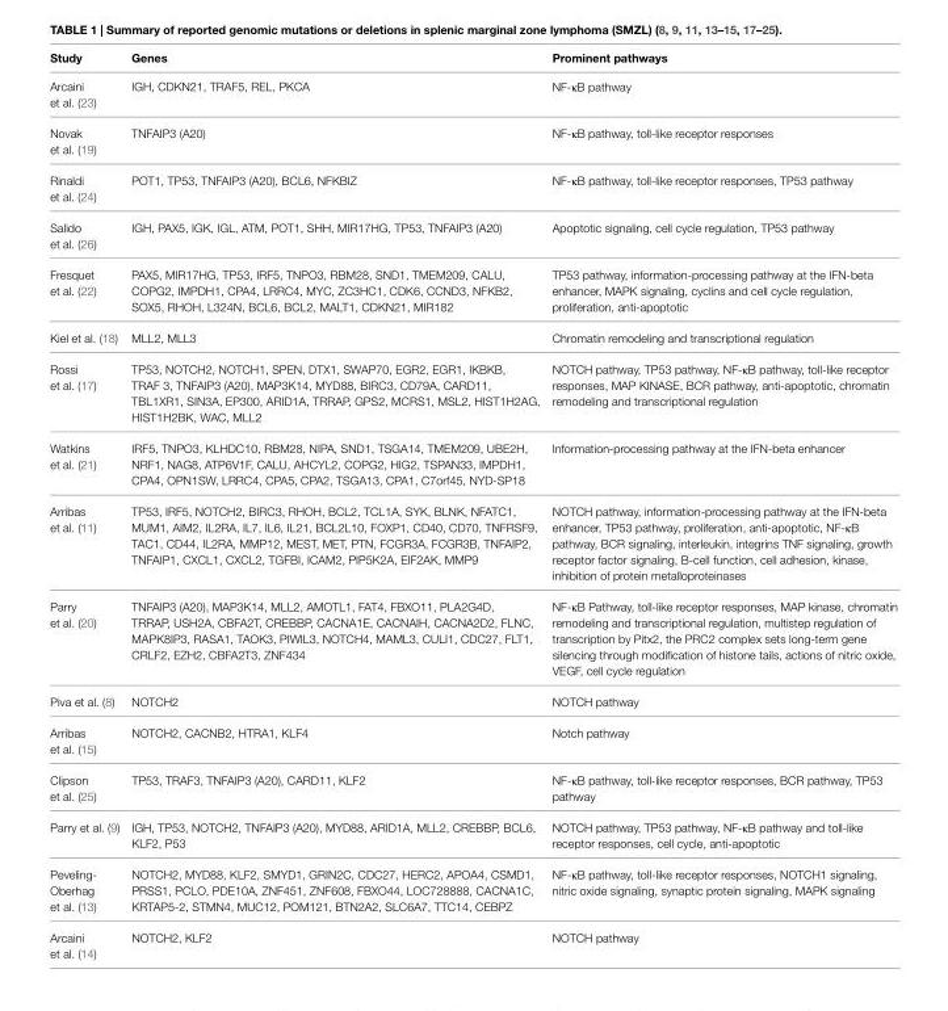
<table><thead><tr><td>Study</td><td>Genes</td><td>Prominent pathways</td></tr></thead><tbody><tr><td>Arcaini et al. (23)</td><td>IGH, CDKN21, TRAF5, REL, PKCA</td><td>NF-κB pathway</td></tr><tr><td>Novak et al. (19)</td><td>TNFAIP3 (A20)</td><td>NF-κB pathway, toll-like receptor responses</td></tr><tr><td>Rinaldi et al. (24)</td><td>POT1, TP53, TNFAIP3 (A20), BCL6, NFKBIZ</td><td>NF-κB pathway, toll-like receptor responses, TP53 pathway</td></tr><tr><td>Salido et al. (26)</td><td>IGH, PAX5, IGK, IGL, ATM, POT1, SHH, MIR17HG, TP53, TNFAIP3 (A20)</td><td>Apoptotic signaling, cell cycle regulation, TP53 pathway</td></tr><tr><td>Fresquet et al. (22)</td><td>PAX5, MIR17HG, TP53, IRF5, TNPO3, RBM28, SND1, TMEM209, CALU, COPG2, IMPDH1, CPA4, LRRC4, MYC, ZC3HC1, CDK6, CCND3, NFKB2, SOX5, RHOH, L324N, BCL6, BCL2, MALT1, CDKN21, MIR182</td><td>TP53 pathway, information-processing pathway at the IFN-beta enhancer, MAPK signaling, cyclins and cell cycle regulation, proliferation, anti-apoptotic</td></tr><tr><td>Kiel et al. (18)</td><td>MLL2, MLL3</td><td>Chromatin remodeling and transcriptional regulation</td></tr><tr><td>Rossi et al. (17)</td><td>TP53, NOTCH2, NOTCH1, SPEN, DTX1, SWAP70, EGR2, EGR1, IKBKB, TRAF 3, TNFAIP3 (A20), MAP3K14, MYD88, BIRC3, CD79A, CARD11, TBL1XR1, SIN3A, EP300, ARID1A, TRRAP, GPS2, MCRS1, MSL2, HIST1H2AG, HIST1H2BK, WAC, MLL2</td><td>NOTCH pathway, TP53 pathway, NF-κB pathway, toll-like receptor responses, MAP KINASE, BCR pathway, anti-apoptotic, chromatin remodeling and transcriptional regulation</td></tr><tr><td>Watkins et al. (21)</td><td>IRF5, TNPO3, KLHDC10, RBM28, NIPA, SND1, TSGA14, TMEM209, UBE2H, NRF1, NAG8, ATP6V1F, CALU, AHCYL2, COPG2, HIG2, TSPAN33, IMPDH1, CPA4, OPN1SW, LRRC4, CPA5, CPA2, TSGA13, CPA1, C7orf45, NYD-SP18</td><td>Information-processing pathway at the IFN-beta enhancer</td></tr><tr><td>Arribas et al. (11)</td><td>TP53, IRF5, NOTCH2, BIRC3, RHOH, BCL2, TCL1A, SYK, BLNK, NFATC1, MUM1, AIM2, IL2RA, IL7, IL6, IL21, BCL2L10, FOXP1, CD40, CD70, TNFRSF9, TAC1, CD44, IL2RA, MMP12, MEST, MET, PTN, FCGR3A, FCGR3B, TNFAIP2, TNFAIP1, CXCL1, CXCL2, TGFBI, ICAM2, PIP5K2A, EIF2AK, MMP9</td><td>NOTCH pathway, information-processing pathway at the IFN-beta enhancer, TP53 pathway, proliferation, anti-apoptotic, NF-κB pathway, BCR signaling, interleukin, integrins TNF signaling, growth receptor factor signaling, B-cell function, cell adhesion, kinase, inhibition of protein metalloproteinases</td></tr><tr><td>Parry et al. (20)</td><td>TNFAIP3 (A20), MAP3K14, MLL2, AMOTL1, FAT4, FBXO11, PLA2G4D, TRRAP, USH2A, CBFA2T, CREBBP, CACNA1E, CACNAIH, CACNA2D2, FLNC, MAPK8IP3, RASA1, TAOK3, PIWIL3, NOTCH4, MAML3, CULI1, CDC27, FLT1, CRLF2, EZH2, CBFA2T3, ZNF434</td><td>NF-κB Pathway, toll-like receptor responses, MAP kinase, chromatin remodeling and transcriptional regulation, multistep regulation of transcription by Pitx2, the PRC2 complex sets long-term gene silencing through modification of histone tails, actions of nitric oxide, VEGF, cell cycle regulation</td></tr><tr><td>Piva et al. (8)</td><td>NOTCH2</td><td>NOTCH pathway</td></tr><tr><td>Arribas et al. (15)</td><td>NOTCH2, CACNB2, HTRA1, KLF4</td><td>Notch pathway</td></tr><tr><td>Clipson et al. (25)</td><td>TP53, TRAF3, TNFAIP3 (A20), CARD11, KLF2</td><td>NF-κB pathway, toll-like receptor responses, BCR pathway, TP53 pathway</td></tr><tr><td>Parry et al. (9)</td><td>IGH, TP53, NOTCH2, TNFAIP3 (A20), MYD88, ARID1A, MLL2, CREBBP, BCL6, KLF2, P53</td><td>NOTCH pathway, TP53 pathway, NF-κB pathway and toll-like receptor responses, cell cycle, anti-apoptotic</td></tr><tr><td>Peveling- Oberhag et al. (13)</td><td>NOTCH2, MYD88, KLF2, SMYD1, GRIN2C, CDC27, HERC2, APOA4, CSMD1, PRSS1, PCLO, PDE10A, ZNF451, ZNF608, FBXO44, LOC728888, CACNA1C, KRTAP5-2, STMN4, MUC12, POM121, BTN2A2, SLC6A7, TTC14, CEBPZ</td><td>NF-κB pathway, toll-like receptor responses, NOTCH1 signaling, nitric oxide signaling, synaptic protein signaling, MAPK signaling</td></tr><tr><td>Arcaini et al. (14)</td><td>NOTCH2, KLF2</td><td>NOTCH pathway</td></tr></tbody></table>